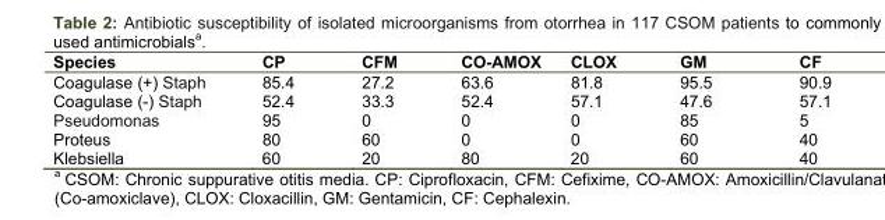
<table><thead><tr><td>Species</td><td>CP</td><td>CFM</td><td>CO-AMOX</td><td>CLOX</td><td>GM</td><td>CF</td></tr></thead><tbody><tr><td>Coagulase (+) Staph</td><td>85.4</td><td>27.2</td><td>63.6</td><td>81.8</td><td>95.5</td><td>90.9</td></tr><tr><td>Coagulase (-) Staph</td><td>52.4</td><td>33.3</td><td>52.4</td><td>57.1</td><td>47.6</td><td>57.1</td></tr><tr><td>Pseudomonas</td><td>95</td><td>0</td><td>0</td><td>0</td><td>85</td><td>5</td></tr><tr><td>Proteus</td><td>80</td><td>60</td><td>0</td><td>0</td><td>60</td><td>40</td></tr><tr><td>Klebsiella</td><td>60</td><td>20</td><td>80</td><td>20</td><td>60</td><td>40</td></tr></tbody></table>